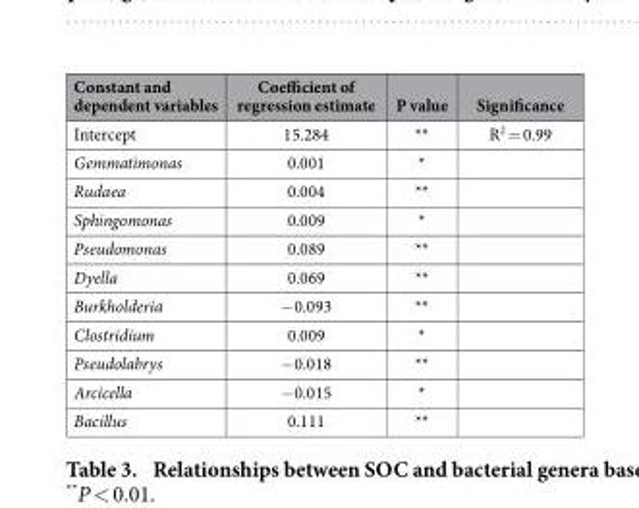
<table><thead><tr><td>Constant and dependent variables</td><td>Coefficient of regression estimate</td><td>P value</td><td>Significance</td></tr></thead><tbody><tr><td>Intercept</td><td>15.284</td><td>**</td><td>R<sup>2</sup> = 0.99</td></tr><tr><td>Gemmatimonas</td><td>0.001</td><td>*</td><td></td></tr><tr><td>Rudaea</td><td>0.004</td><td>**</td><td></td></tr><tr><td>Sphingomonas</td><td>0.009</td><td>*</td><td></td></tr><tr><td>Pseudomonas</td><td>0.089</td><td>**</td><td></td></tr><tr><td>Dyella</td><td>0.069</td><td>**</td><td></td></tr><tr><td>Burkholderia</td><td>− 0.093</td><td>**</td><td></td></tr><tr><td>Clostridium</td><td>0.009</td><td>*</td><td></td></tr><tr><td>Pseudolabrys</td><td>− 0.018</td><td>**</td><td></td></tr><tr><td>Arcicella</td><td>− 0.015</td><td>*</td><td></td></tr><tr><td>Bacillus</td><td>0.111</td><td>**</td><td></td></tr></tbody></table>